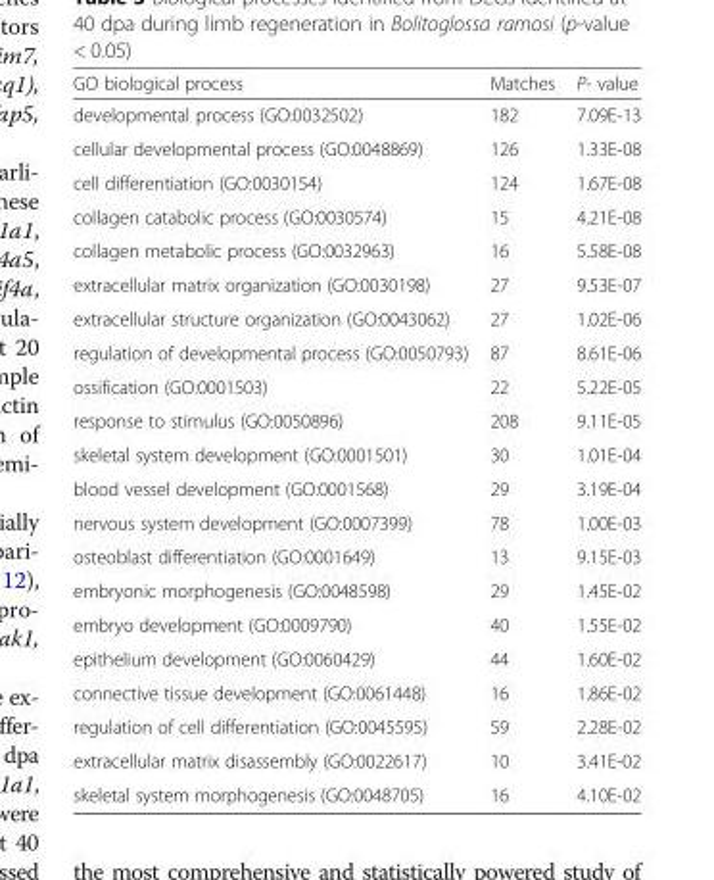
<table><thead><tr><td>GO biological process</td><td>Matches</td><td>P- value</td></tr></thead><tbody><tr><td>developmental process (GO:0032502)</td><td>182</td><td>7.09E-13</td></tr><tr><td>cellular developmental process (GO:0048869)</td><td>126</td><td>1.33E-08</td></tr><tr><td>cell differentiation (GO:0030154)</td><td>124</td><td>1.67E-08</td></tr><tr><td>collagen catabolic process (GO:0030574)</td><td>15</td><td>4.21E-08</td></tr><tr><td>collagen metabolic process (GO:0032963)</td><td>16</td><td>5.58E-08</td></tr><tr><td>extracellular matrix organization (GO:0030198)</td><td>27</td><td>9.53E-07</td></tr><tr><td>extracellular structure organization (GO:0043062)</td><td>27</td><td>1.02E-06</td></tr><tr><td>regulation of developmental process (GO:0050793)</td><td>87</td><td>8.61E-06</td></tr><tr><td>ossification (GO:0001503)</td><td>22</td><td>5.22E-05</td></tr><tr><td>response to stimulus (GO:0050896)</td><td>208</td><td>9.11E-05</td></tr><tr><td>skeletal system development (GO:0001501)</td><td>30</td><td>1.01E-04</td></tr><tr><td>blood vessel development (GO:0001568)</td><td>29</td><td>3.19E-04</td></tr><tr><td>nervous system development (GO:0007399)</td><td>78</td><td>1.00E-03</td></tr><tr><td>osteoblast differentiation (GO:0001649)</td><td>13</td><td>9.15E-03</td></tr><tr><td>embryonic morphogenesis (GO:0048598)</td><td>29</td><td>1.45E-02</td></tr><tr><td>embryo development (GO:0009790)</td><td>40</td><td>1.55E-02</td></tr><tr><td>epithelium development (GO:0060429)</td><td>44</td><td>1.60E-02</td></tr><tr><td>connective tissue development (GO:0061448)</td><td>16</td><td>1.86E-02</td></tr><tr><td>regulation of cell differentiation (GO:0045595)</td><td>59</td><td>2.28E-02</td></tr><tr><td>extracellular matrix disassembly (GO:0022617)</td><td>10</td><td>3.41E-02</td></tr><tr><td>skeletal system morphogenesis (GO:0048705)</td><td>16</td><td>4.10E-02</td></tr></tbody></table>